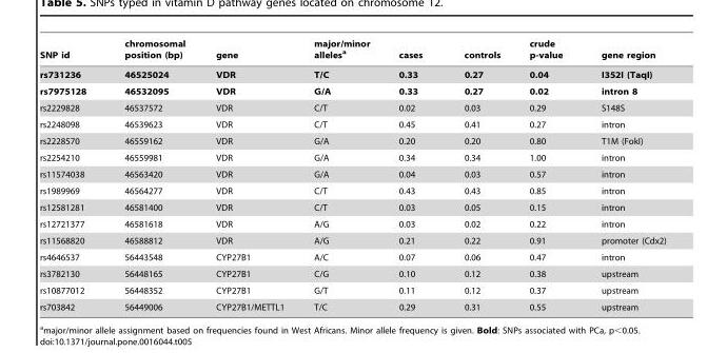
<table><thead><tr><td>SNP id</td><td>chromosomal position (bp)</td><td>gene</td><td>major/minor alleles<sup>a</sup></td><td>cases</td><td>controls</td><td>crude p-value</td><td>gene region</td></tr></thead><tbody><tr><td>rs731236</td><td>46525024</td><td>VDR</td><td>T/C</td><td>0.33</td><td>0.27</td><td>0.04</td><td>I352I (TaqI)</td></tr><tr><td>rs7975128</td><td>46532095</td><td>VDR</td><td>G/A</td><td>0.33</td><td>0.27</td><td>0.02</td><td>intron 8</td></tr><tr><td>rs2229828</td><td>46537572</td><td>VDR</td><td>C/T</td><td>0.02</td><td>0.03</td><td>0.29</td><td>S148S</td></tr><tr><td>rs2248098</td><td>46539623</td><td>VDR</td><td>C/T</td><td>0.45</td><td>0.41</td><td>0.27</td><td>intron</td></tr><tr><td>rs2228570</td><td>46559162</td><td>VDR</td><td>G/A</td><td>0.20</td><td>0.20</td><td>0.80</td><td>T1M (FokI)</td></tr><tr><td>rs2254210</td><td>46559981</td><td>VDR</td><td>G/A</td><td>0.34</td><td>0.34</td><td>1.00</td><td>intron</td></tr><tr><td>rs11574038</td><td>46563420</td><td>VDR</td><td>G/A</td><td>0.04</td><td>0.03</td><td>0.57</td><td>intron</td></tr><tr><td>rs1989969</td><td>46564277</td><td>VDR</td><td>C/T</td><td>0.43</td><td>0.43</td><td>0.85</td><td>intron</td></tr><tr><td>rs12581281</td><td>46581400</td><td>VDR</td><td>C/T</td><td>0.03</td><td>0.05</td><td>0.15</td><td>intron</td></tr><tr><td>rs12721377</td><td>46581618</td><td>VDR</td><td>A/G</td><td>0.03</td><td>0.02</td><td>0.22</td><td>intron</td></tr><tr><td>rs11568820</td><td>46588812</td><td>VDR</td><td>A/G</td><td>0.21</td><td>0.22</td><td>0.91</td><td>promoter (Cdx2)</td></tr><tr><td>rs4646537</td><td>56443548</td><td>CYP27B1</td><td>A/C</td><td>0.07</td><td>0.06</td><td>0.47</td><td>intron</td></tr><tr><td>rs3782130</td><td>56448165</td><td>CYP27B1</td><td>C/G</td><td>0.10</td><td>0.12</td><td>0.38</td><td>upstream</td></tr><tr><td>rs10877012</td><td>56448352</td><td>CYP27B1</td><td>G/T</td><td>0.11</td><td>0.12</td><td>0.37</td><td>upstream</td></tr><tr><td>rs703842</td><td>56449006</td><td>CYP27B1/METTL1</td><td>T/C</td><td>0.29</td><td>0.31</td><td>0.55</td><td>upstream</td></tr></tbody></table>